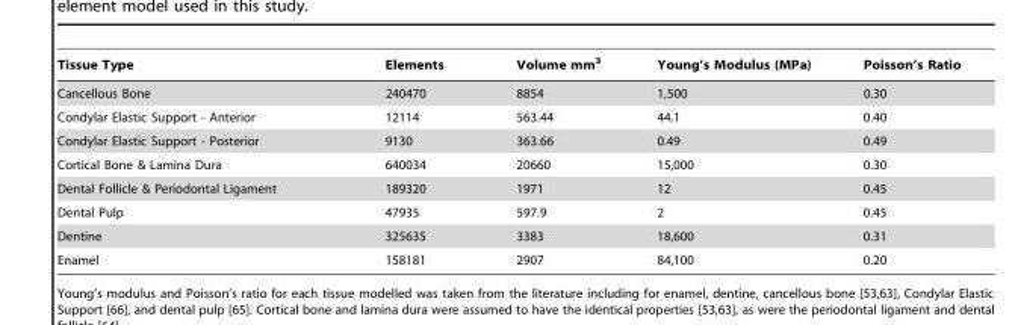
<table><thead><tr><td>Tissue Type</td><td>Elements</td><td>Volume mm<sup>3</sup></td><td>Young’s Modulus (MPa)</td><td>Poisson’s Ratio</td></tr></thead><tbody><tr><td>Cancellous Bone</td><td>240470</td><td>8854</td><td>1,500</td><td>0.30</td></tr><tr><td>Condylar Elastic Support - Anterior</td><td>12114</td><td>563.44</td><td>44.1</td><td>0.40</td></tr><tr><td>Condylar Elastic Support - Posterior</td><td>9130</td><td>363.66</td><td>0.49</td><td>0.49</td></tr><tr><td>Cortical Bone &amp; Lamina Dura</td><td>640034</td><td>20660</td><td>15,000</td><td>0.30</td></tr><tr><td>Dental Follicle &amp; Periodontal Ligament</td><td>189320</td><td>1971</td><td>12</td><td>0.45</td></tr><tr><td>Dental Pulp</td><td>47935</td><td>597.9</td><td>2</td><td>0.45</td></tr><tr><td>Dentine</td><td>325635</td><td>3383</td><td>18,600</td><td>0.31</td></tr><tr><td>Enamel</td><td>158181</td><td>2907</td><td>84,100</td><td>0.20</td></tr></tbody></table>